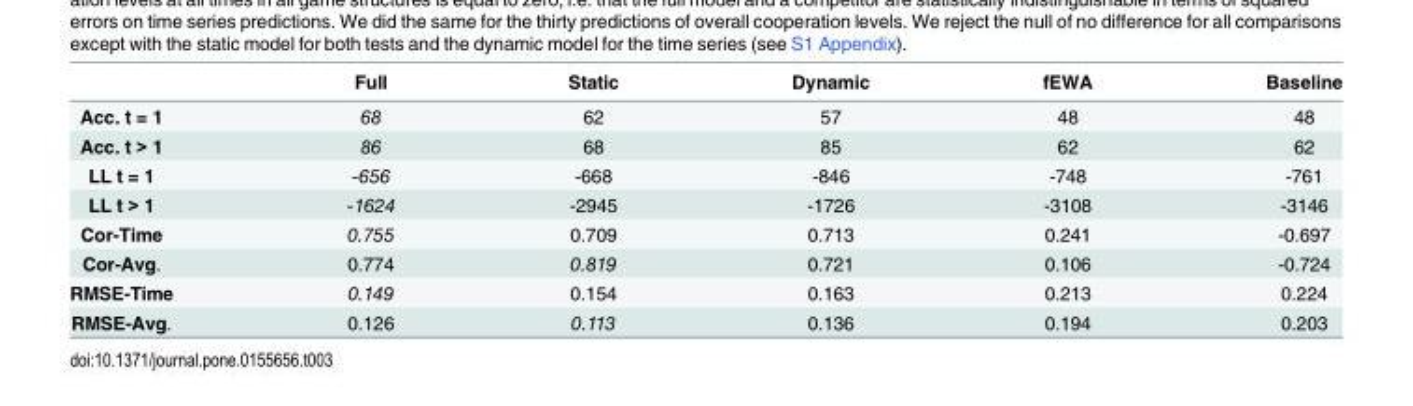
<table><thead><tr><td></td><td>Full</td><td>Static</td><td>Dynamic</td><td>fEWA</td><td>Baseline</td></tr></thead><tbody><tr><td>Acc. t = 1</td><td>68</td><td>62</td><td>57</td><td>48</td><td>48</td></tr><tr><td>Acc. t &gt; 1</td><td>86</td><td>68</td><td>85</td><td>62</td><td>62</td></tr><tr><td>LL t = 1</td><td>-656</td><td>-668</td><td>-846</td><td>-748</td><td>-761</td></tr><tr><td>LL t &gt; 1</td><td>-1624</td><td>-2945</td><td>-1726</td><td>-3108</td><td>-3146</td></tr><tr><td>Cor-Time</td><td>0.755</td><td>0.709</td><td>0.713</td><td>0.241</td><td>-0.697</td></tr><tr><td>Cor-Avg.</td><td>0.774</td><td>0.819</td><td>0.721</td><td>0.106</td><td>-0.724</td></tr><tr><td>RMSE-Time</td><td>0.149</td><td>0.154</td><td>0.163</td><td>0.213</td><td>0.224</td></tr><tr><td>RMSE-Avg.</td><td>0.126</td><td>0.113</td><td>0.136</td><td>0.194</td><td>0.203</td></tr></tbody></table>